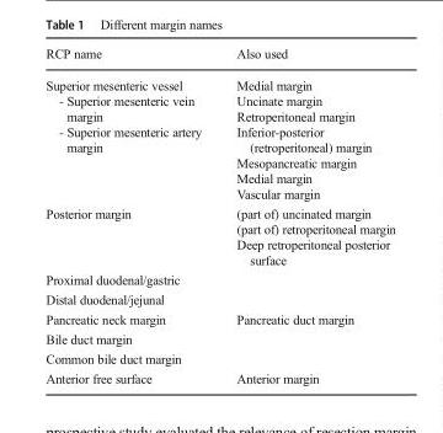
<table><thead><tr><td>RCP name</td><td>Also used</td></tr></thead><tbody><tr><td>Superior mesenteric vessel - Superior mesenteric vein margin - Superior mesenteric artery margin</td><td>Medial margin Uncinate margin Retroperitoneal margin Inferior-posterior (retroperitoneal) margin Mesopancreatic margin Medial margin Vascular margin</td></tr><tr><td>Posterior margin</td><td>(part of) uncinated margin (part of) retroperitoneal margin Deep retroperitoneal posterior surface</td></tr><tr><td colspan="2">Proximal duodenal/gastric</td></tr><tr><td colspan="2">Distal duodenal/jejunal</td></tr><tr><td>Pancreatic neck margin</td><td>Pancreatic duct margin</td></tr><tr><td colspan="2">Bile duct margin</td></tr><tr><td colspan="2">Common bile duct margin</td></tr><tr><td>Anterior free surface</td><td>Anterior margin</td></tr></tbody></table>